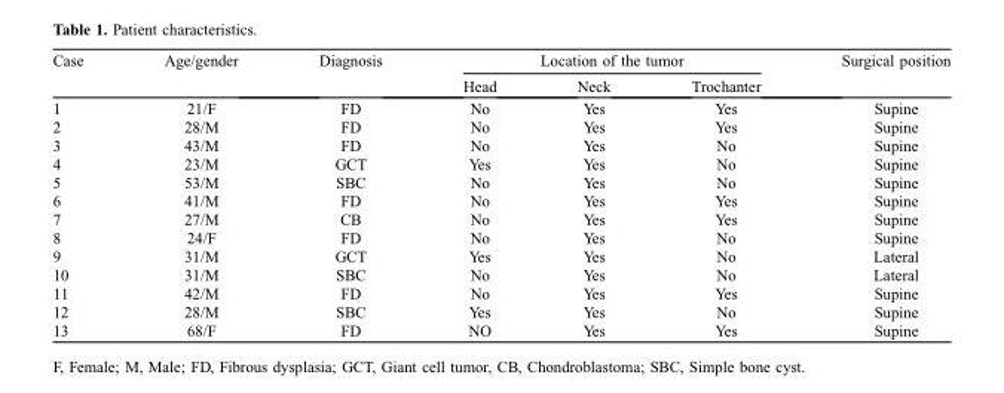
<table><thead><tr><td rowspan="2">Case</td><td rowspan="2">Age/gender</td><td rowspan="2">Diagnosis</td><td colspan="3">Location of the tumor</td><td rowspan="2">Surgical position</td></tr><tr><td>Head</td><td>Neck</td><td>Trochanter</td></tr></thead><tbody><tr><td>1</td><td>21/F</td><td>FD</td><td>No</td><td>Yes</td><td>Yes</td><td>Supine</td></tr><tr><td>2</td><td>28/M</td><td>FD</td><td>No</td><td>Yes</td><td>Yes</td><td>Supine</td></tr><tr><td>3</td><td>43/M</td><td>FD</td><td>No</td><td>Yes</td><td>No</td><td>Supine</td></tr><tr><td>4</td><td>23/M</td><td>GCT</td><td>Yes</td><td>Yes</td><td>No</td><td>Supine</td></tr><tr><td>5</td><td>53/M</td><td>SBC</td><td>No</td><td>Yes</td><td>No</td><td>Supine</td></tr><tr><td>6</td><td>41/M</td><td>FD</td><td>No</td><td>Yes</td><td>Yes</td><td>Supine</td></tr><tr><td>7</td><td>27/M</td><td>CB</td><td>No</td><td>Yes</td><td>Yes</td><td>Supine</td></tr><tr><td>8</td><td>24/F</td><td>FD</td><td>No</td><td>Yes</td><td>No</td><td>Supine</td></tr><tr><td>9</td><td>31/M</td><td>GCT</td><td>Yes</td><td>Yes</td><td>No</td><td>Lateral</td></tr><tr><td>10</td><td>31/M</td><td>SBC</td><td>No</td><td>Yes</td><td>No</td><td>Lateral</td></tr><tr><td>11</td><td>42/M</td><td>FD</td><td>No</td><td>Yes</td><td>Yes</td><td>Supine</td></tr><tr><td>12</td><td>28/M</td><td>SBC</td><td>Yes</td><td>Yes</td><td>No</td><td>Supine</td></tr><tr><td>13</td><td>68/F</td><td>FD</td><td>NO</td><td>Yes</td><td>Yes</td><td>Supine</td></tr></tbody></table>